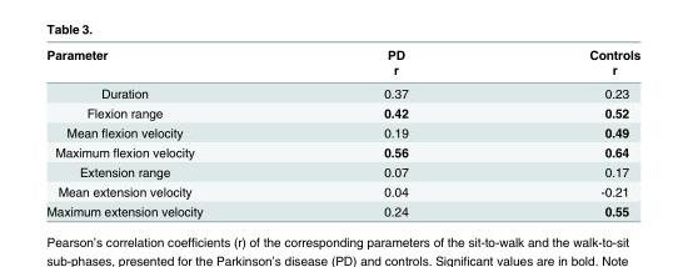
<table><thead><tr><td rowspan="2">Parameter</td><td rowspan="2">PD r</td><td rowspan="2">Controls r</td></tr><tr></tr></thead><tbody><tr><td>Duration</td><td>0.37</td><td>0.23</td></tr><tr><td>Flexion range</td><td>0.42</td><td>0.52</td></tr><tr><td>Mean flexion velocity</td><td>0.19</td><td>0.49</td></tr><tr><td>Maximum flexion velocity</td><td>0.56</td><td>0.64</td></tr><tr><td>Extension range</td><td>0.07</td><td>0.17</td></tr><tr><td>Mean extension velocity</td><td>0.04</td><td>-0.21</td></tr><tr><td>Maximum extension velocity</td><td>0.24</td><td>0.55</td></tr></tbody></table>